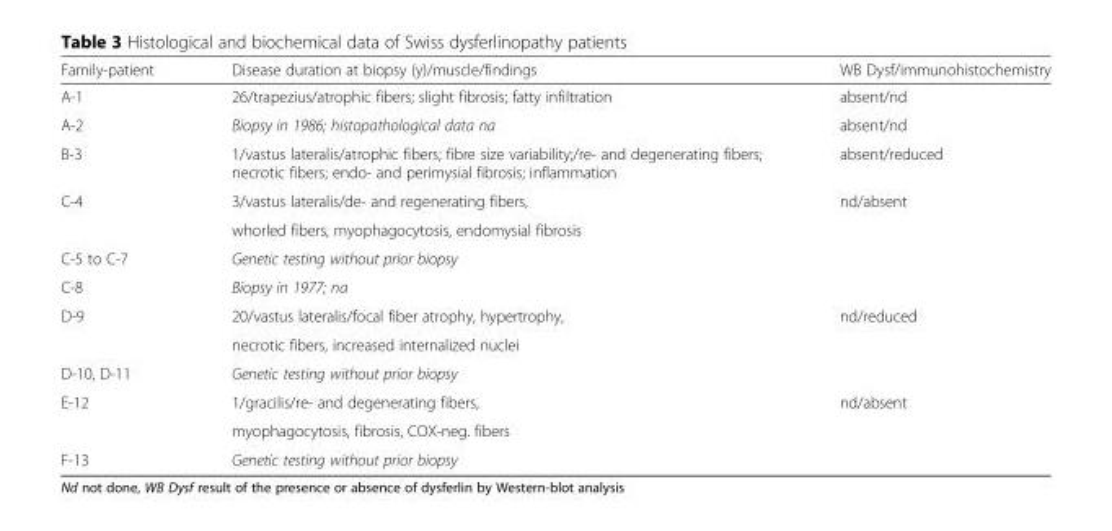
<table><thead><tr><td>Family-patient</td><td>Disease duration at biopsy (y)/muscle/findings</td><td>WB Dysf/immunohistochemistry</td></tr></thead><tbody><tr><td>A-1</td><td>26/trapezius/atrophic fibers; slight fibrosis; fatty infiltration</td><td>absent/nd</td></tr><tr><td>A-2</td><td>Biopsy in 1986; histopathological data na</td><td>absent/nd</td></tr><tr><td>B-3</td><td>1/vastus lateralis/atrophic fibers; fibre size variability;/re- and degenerating fibers; necrotic fibers; endo- and perimysial fibrosis; inflammation</td><td>absent/reduced</td></tr><tr><td rowspan="2">C-4</td><td>3/vastus lateralis/de- and regenerating fibers,</td><td>nd/absent</td></tr><tr><td>whorled fibers, myophagocytosis, endomysial fibrosis</td><td></td></tr><tr><td>C-5 to C-7</td><td>Genetic testing without prior biopsy</td><td></td></tr><tr><td>C-8</td><td>Biopsy in 1977; na</td><td></td></tr><tr><td rowspan="2">D-9</td><td>20/vastus lateralis/focal fiber atrophy, hypertrophy,</td><td>nd/reduced</td></tr><tr><td>necrotic fibers, increased internalized nuclei</td><td></td></tr><tr><td>D-10, D-11</td><td>Genetic testing without prior biopsy</td><td></td></tr><tr><td rowspan="2">E-12</td><td>1/gracilis/re- and degenerating fibers,</td><td>nd/absent</td></tr><tr><td>myophagocytosis, fibrosis, COX-neg. fibers</td><td></td></tr><tr><td>F-13</td><td>Genetic testing without prior biopsy</td><td></td></tr></tbody></table>